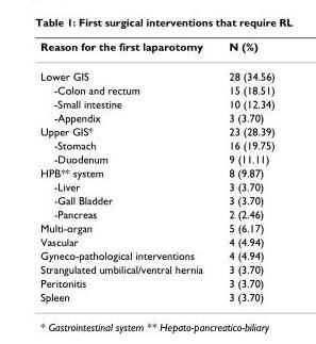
<table><thead><tr><td>Reason for the first laparotomy</td><td>N (%)</td></tr></thead><tbody><tr><td>Lower GIS</td><td>28 (34.56)</td></tr><tr><td>-Colon and rectum</td><td>15 (18.51)</td></tr><tr><td>-Small intestine</td><td>10 (12.34)</td></tr><tr><td>-Appendix</td><td>3 (3.70)</td></tr><tr><td>Upper GIS*</td><td>23 (28.39)</td></tr><tr><td>-Stomach</td><td>16 (19.75)</td></tr><tr><td>-Duodenum</td><td>9 (11.11)</td></tr><tr><td>HPB** system</td><td>8 (9.87)</td></tr><tr><td>-Liver</td><td>3 (3.70)</td></tr><tr><td>-Gall Bladder</td><td>3 (3.70)</td></tr><tr><td>-Pancreas</td><td>2 (2.46)</td></tr><tr><td>Multi-organ</td><td>5 (6.17)</td></tr><tr><td>Vascular</td><td>4 (4.94)</td></tr><tr><td>Gyneco-pathological interventions</td><td>4 (4.94)</td></tr><tr><td>Strangulated umbilical/ventral hernia</td><td>3 (3.70)</td></tr><tr><td>Peritonitis</td><td>3 (3.70)</td></tr><tr><td>Spleen</td><td>3 (3.70)</td></tr></tbody></table>